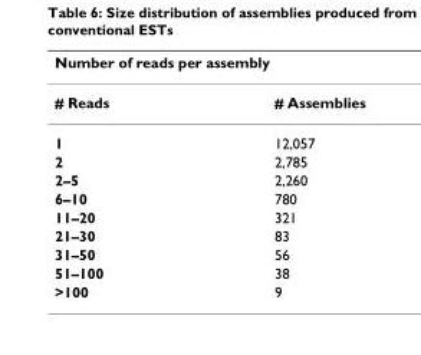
<table><thead><tr><td colspan="2">Number of reads per assembly</td></tr><tr><td># Reads</td><td># Assemblies</td></tr></thead><tbody><tr><td>1</td><td>12,057</td></tr><tr><td>2</td><td>2,785</td></tr><tr><td>2–5</td><td>2,260</td></tr><tr><td>6–10</td><td>780</td></tr><tr><td>11–20</td><td>321</td></tr><tr><td>21–30</td><td>83</td></tr><tr><td>31–50</td><td>56</td></tr><tr><td>51–100</td><td>38</td></tr><tr><td>&gt;100</td><td>9</td></tr></tbody></table>